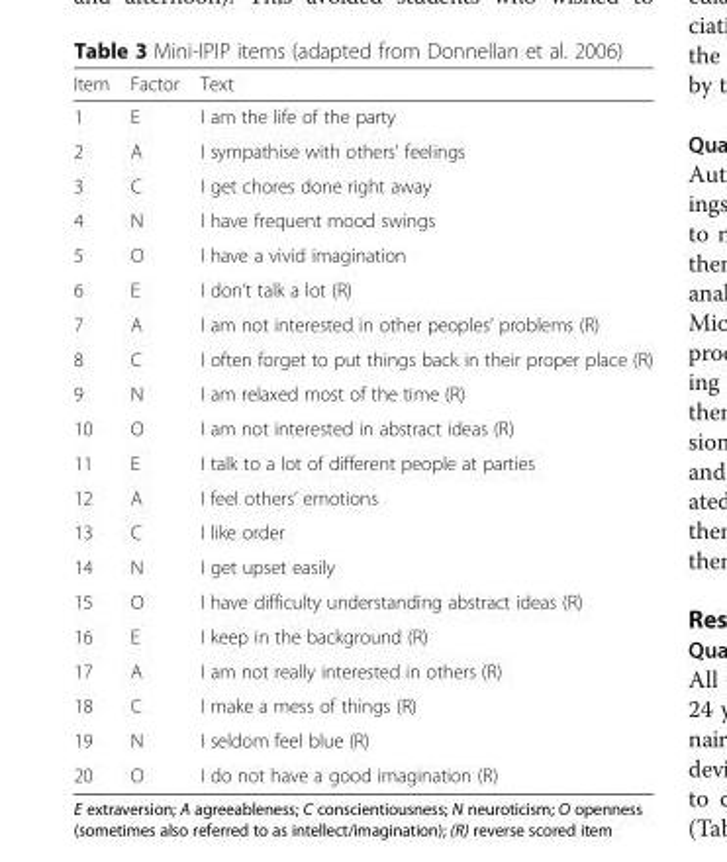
<table><thead><tr><td>Item</td><td>Factor</td><td>Text</td></tr></thead><tbody><tr><td>1</td><td>E</td><td>I am the life of the party</td></tr><tr><td>2</td><td>A</td><td>I sympathise with others’ feelings</td></tr><tr><td>3</td><td>C</td><td>I get chores done right away</td></tr><tr><td>4</td><td>N</td><td>I have frequent mood swings</td></tr><tr><td>5</td><td>O</td><td>I have a vivid imagination</td></tr><tr><td>6</td><td>E</td><td>I don’t talk a lot (R)</td></tr><tr><td>7</td><td>A</td><td>I am not interested in other peoples’ problems (R)</td></tr><tr><td>8</td><td>C</td><td>I often forget to put things back in their proper place (R)</td></tr><tr><td>9</td><td>N</td><td>I am relaxed most of the time (R)</td></tr><tr><td>10</td><td>O</td><td>I am not interested in abstract ideas (R)</td></tr><tr><td>11</td><td>E</td><td>I talk to a lot of different people at parties</td></tr><tr><td>12</td><td>A</td><td>I feel others’ emotions</td></tr><tr><td>13</td><td>C</td><td>I like order</td></tr><tr><td>14</td><td>N</td><td>I get upset easily</td></tr><tr><td>15</td><td>O</td><td>I have difficulty understanding abstract ideas (R)</td></tr><tr><td>16</td><td>E</td><td>I keep in the background (R)</td></tr><tr><td>17</td><td>A</td><td>I am not really interested in others (R)</td></tr><tr><td>18</td><td>C</td><td>I make a mess of things (R)</td></tr><tr><td>19</td><td>N</td><td>I seldom feel blue (R)</td></tr><tr><td>20</td><td>O</td><td>I do not have a good imagination (R)</td></tr></tbody></table>